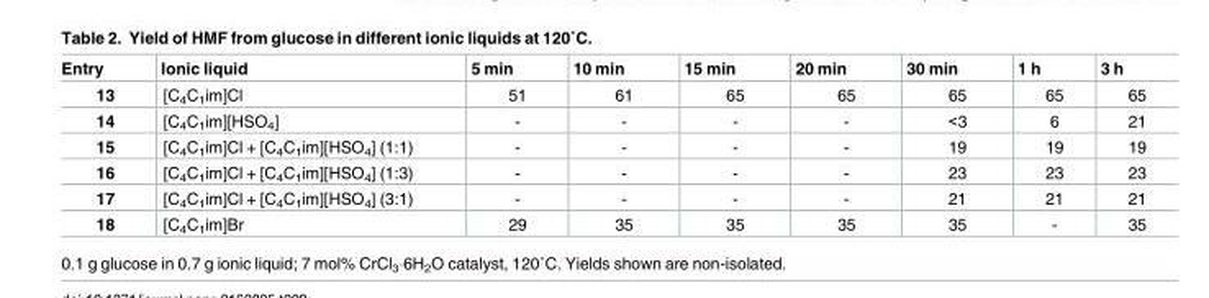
<table><thead><tr><td>Entry</td><td>Ionic liquid</td><td>5 min</td><td>10 min</td><td>15 min</td><td>20 min</td><td>30 min</td><td>1 h</td><td>3 h</td></tr></thead><tbody><tr><td>13</td><td>[C<sub>4</sub>C<sub>1</sub>im]Cl</td><td>51</td><td>61</td><td>65</td><td>65</td><td>65</td><td>65</td><td>65</td></tr><tr><td>14</td><td>[C<sub>4</sub>C<sub>1</sub>im][HSO<sub>4</sub>]</td><td>-</td><td>-</td><td>-</td><td>-</td><td>&lt;3</td><td>6</td><td>21</td></tr><tr><td>15</td><td>[C<sub>4</sub>C<sub>1</sub>im]Cl + [C<sub>4</sub>C<sub>1</sub>im][HSO<sub>4</sub>] (1:1)</td><td>-</td><td>-</td><td>-</td><td>-</td><td>19</td><td>19</td><td>19</td></tr><tr><td>16</td><td>[C<sub>4</sub>C<sub>1</sub>im]Cl + [C<sub>4</sub>C<sub>1</sub>im][HSO<sub>4</sub>] (1:3)</td><td>-</td><td>-</td><td>-</td><td>-</td><td>23</td><td>23</td><td>23</td></tr><tr><td>17</td><td>[C<sub>4</sub>C<sub>1</sub>im]Cl + [C<sub>4</sub>C<sub>1</sub>im][HSO<sub>4</sub>] (3:1)</td><td>-</td><td>-</td><td>-</td><td>-</td><td>21</td><td>21</td><td>21</td></tr><tr><td>18</td><td>[C<sub>4</sub>C<sub>1</sub>im]Br</td><td>29</td><td>35</td><td>35</td><td>35</td><td>35</td><td>-</td><td>35</td></tr></tbody></table>